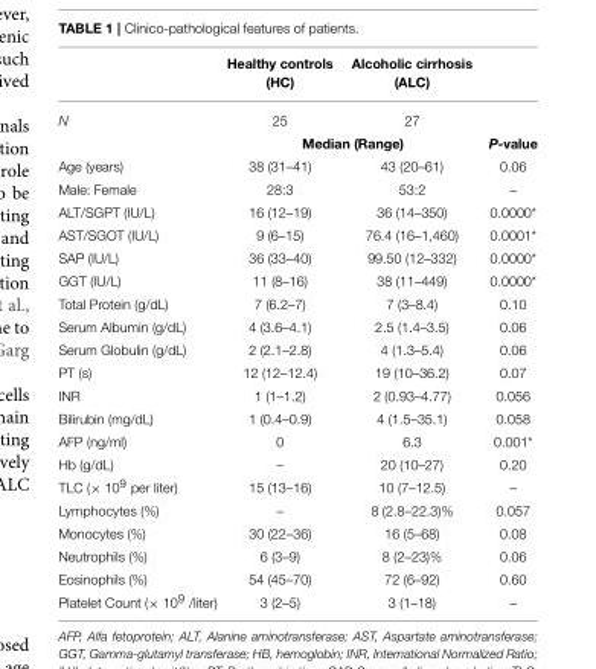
<table><thead><tr><td></td><td>Healthy controls (HC)</td><td>Alcoholic cirrhosis (ALC)</td><td></td></tr></thead><tbody><tr><td rowspan="2">N</td><td>25</td><td>27</td><td></td></tr><tr><td colspan="2">Median (Range)</td><td>P-value</td></tr><tr><td>Age (years)</td><td>38 (31–41)</td><td>43 (20–61)</td><td>0.06</td></tr><tr><td>Male: Female</td><td>28:3</td><td>53:2</td><td>–</td></tr><tr><td>ALT/SGPT (IU/L)</td><td>16 (12–19)</td><td>36 (14–350)</td><td>0.0000*</td></tr><tr><td>AST/SGOT (IU/L)</td><td>9 (6–15)</td><td>76.4 (16–1,460)</td><td>0.0001*</td></tr><tr><td>SAP (IU/L)</td><td>36 (33–40)</td><td>99.50 (12–332)</td><td>0.0000*</td></tr><tr><td>GGT (IU/L)</td><td>11 (8–16)</td><td>38 (11–449)</td><td>0.0000*</td></tr><tr><td>Total Protein (g/dL)</td><td>7 (6.2–7)</td><td>7 (3–8.4)</td><td>0.10</td></tr><tr><td>Serum Albumin (g/dL)</td><td>4 (3.6–4.1)</td><td>2.5 (1.4–3.5)</td><td>0.06</td></tr><tr><td>Serum Globulin (g/dL)</td><td>2 (2.1–2.8)</td><td>4 (1.3–5.4)</td><td>0.06</td></tr><tr><td>PT (s)</td><td>12 (12–12.4)</td><td>19 (10–36.2)</td><td>0.07</td></tr><tr><td>INR</td><td>1 (1–1.2)</td><td>2 (0.93–4.77)</td><td>0.056</td></tr><tr><td>Bilirubin (mg/dL)</td><td>1 (0.4–0.9)</td><td>4 (1.5–35.1)</td><td>0.058</td></tr><tr><td>AFP (ng/ml)</td><td>0</td><td>6.3</td><td>0.001*</td></tr><tr><td>Hb (g/dL)</td><td>–</td><td>20 (10–27)</td><td>0.20</td></tr><tr><td>TLC (× 10<sup>9</sup> per liter)</td><td>15 (13–16)</td><td>10 (7–12.5)</td><td>–</td></tr><tr><td>Lymphocytes (%)</td><td>–</td><td>8 (2.8–22.3)%</td><td>0.057</td></tr><tr><td>Monocytes (%)</td><td>30 (22–36)</td><td>16 (5–68)</td><td>0.08</td></tr><tr><td>Neutrophils (%)</td><td>6 (3–9)</td><td>8 (2–23)%</td><td>0.06</td></tr><tr><td>Eosinophils (%)</td><td>54 (45–70)</td><td>72 (6–92)</td><td>0.60</td></tr><tr><td>Platelet Count (× 10<sup>9</sup> /liter)</td><td>3 (2–5)</td><td>3 (1–18)</td><td>–</td></tr></tbody></table>